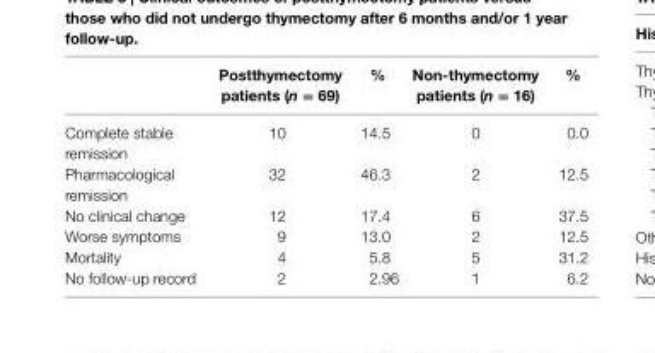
<table><thead><tr><td></td><td>Postthymectomy patients (n = 69)</td><td>%</td><td>non-thymectomy patients (n = 16)</td><td>%</td></tr></thead><tbody><tr><td>Complete stable remission</td><td>10</td><td>14.5</td><td>0</td><td>0.0</td></tr><tr><td>Pharmacological remission</td><td>32</td><td>46.3</td><td>2</td><td>12.5</td></tr><tr><td>No clinical change</td><td>12</td><td>17.4</td><td>6</td><td>37.5</td></tr><tr><td>Worse symptoms</td><td>9</td><td>13.0</td><td>2</td><td>12.5</td></tr><tr><td>Mortality</td><td>4</td><td>5.8</td><td>5</td><td>31.2</td></tr><tr><td>No follow-up record</td><td>2</td><td>2.96</td><td>1</td><td>6.2</td></tr></tbody></table>